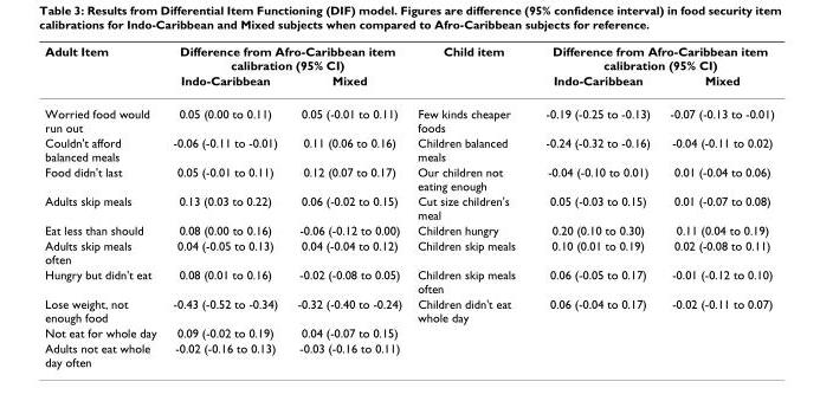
<table><thead><tr><td rowspan="2">Adult Item</td><td colspan="2">Difference from Afro-Caribbean item calibration (95% CI)</td><td rowspan="2">Child item</td><td colspan="2">Difference from Afro-Caribbean item calibration (95% CI)</td></tr><tr><td>Indo-Caribbean</td><td>Mixed</td><td>Indo-Caribbean</td><td>Mixed</td></tr></thead><tbody><tr><td>Worried food would run out</td><td>0.05 (0.00 to 0.11)</td><td>0.05 (-0.01 to 0.11)</td><td>Few kinds cheaper foods</td><td>-0.19 (-0.25 to -0.13)</td><td>-0.07 (-0.13 to -0.01)</td></tr><tr><td>Couldn&#x27;t afford balanced meals</td><td>-0.06 (-0.11 to -0.01)</td><td>0.11 (0.06 to 0.16)</td><td>Children balanced meals</td><td>-0.24 (-0.32 to -0.16)</td><td>-0.04 (-0.11 to 0.02)</td></tr><tr><td>Food didn&#x27;t last</td><td>0.05 (-0.01 to 0.11)</td><td>0.12 (0.07 to 0.17)</td><td>Our children not eating enough</td><td>-0.04 (-0.10 to 0.01)</td><td>0.01 (-0.04 to 0.06)</td></tr><tr><td>Adults skip meals</td><td>0.13 (0.03 to 0.22)</td><td>0.06 (-0.02 to 0.15)</td><td>Cut size children&#x27;s meal</td><td>0.05 (-0.03 to 0.15)</td><td>0.01 (-0.07 to 0.08)</td></tr><tr><td>Eat less than should</td><td>0.08 (0.00 to 0.16)</td><td>-0.06 (-0.12 to 0.00)</td><td>Children hungry</td><td>0.20 (0.10 to 0.30)</td><td>0.11 (0.04 to 0.19)</td></tr><tr><td>Adults skip meals often</td><td>0.04 (-0.05 to 0.13)</td><td>0.04 (-0.04 to 0.12)</td><td>Children skip meals</td><td>0.10 (0.01 to 0.19)</td><td>0.02 (-0.08 to 0.11)</td></tr><tr><td>Hungry but didn&#x27;t eat</td><td>0.08 (0.01 to 0.16)</td><td>-0.02 (-0.08 to 0.05)</td><td>Children skip meals often</td><td>0.06 (-0.05 to 0.17)</td><td>-0.01 (-0.12 to 0.10)</td></tr><tr><td>Lose weight, not enough food</td><td>-0.43 (-0.52 to -0.34)</td><td>-0.32 (-0.40 to -0.24)</td><td>Children didn&#x27;t eat whole day</td><td>0.06 (-0.04 to 0.17)</td><td>-0.02 (-0.11 to 0.07)</td></tr><tr><td>Not eat for whole day</td><td>0.09 (-0.02 to 0.19)</td><td>0.04 (-0.07 to 0.15)</td><td></td><td></td><td></td></tr><tr><td>Adults not eat whole day often</td><td>-0.02 (-0.16 to 0.13)</td><td>-0.03 (-0.16 to 0.11)</td><td></td><td></td><td></td></tr></tbody></table>